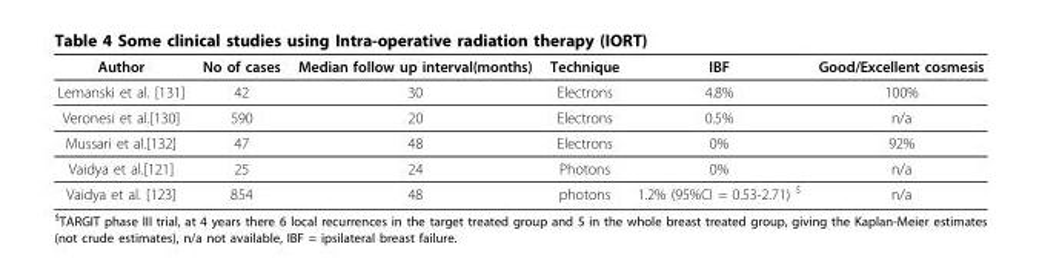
<table><thead><tr><td>Author</td><td>No of cases</td><td>Median follow up interval(months)</td><td>Technique</td><td>IBF</td><td>Good/Excellent cosmesis</td></tr></thead><tbody><tr><td>Lemanski et al. [131]</td><td>42</td><td>30</td><td>Electrons</td><td>4.8%</td><td>100%</td></tr><tr><td>Veronesi et al.[130]</td><td>590</td><td>20</td><td>Electrons</td><td>0.5%</td><td>n/a</td></tr><tr><td>Mussari et al.[132]</td><td>47</td><td>48</td><td>Electrons</td><td>0%</td><td>92%</td></tr><tr><td>Vaidya et al.[121]</td><td>25</td><td>24</td><td>Photons</td><td>0%</td><td>n/a</td></tr><tr><td>Vaidya et al. [123]</td><td>854</td><td>48</td><td>photons</td><td>1.2% (95%CI = 0.53-2.71) <sup>$</sup></td><td>n/a</td></tr></tbody></table>